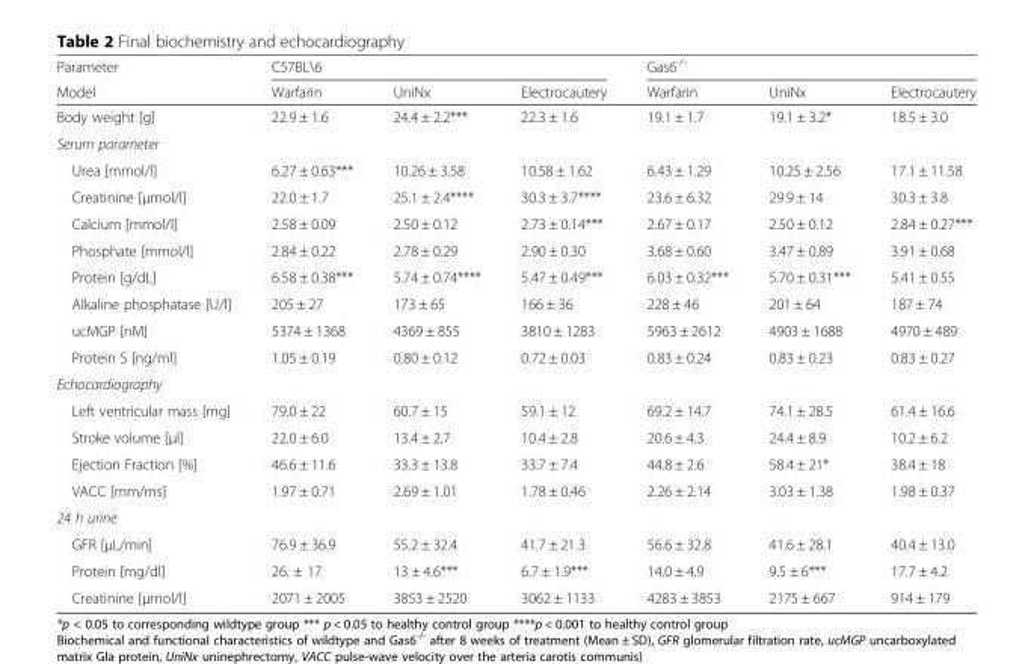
<table><thead><tr><td rowspan="2">Parameter Model</td><td colspan="3">C57BL\6</td><td colspan="3">Gas6<sup>-/-</sup></td></tr><tr><td>Warfarin</td><td>UniNx</td><td>Electrocautery</td><td>Warfarin</td><td>UniNx</td><td>Electrocautery</td></tr></thead><tbody><tr><td>Body weight [g]</td><td>22.9 ± 1.6</td><td>24.4 ± 2.2***</td><td>22.3 ± 1.6</td><td>19.1 ± 1.7</td><td>19.1 ± 3.2*</td><td>18.5 ± 3.0</td></tr><tr><td colspan="7">Serum parameter</td></tr><tr><td>Urea [mmol/l]</td><td>6.27 ± 0.63***</td><td>10.26 ± 3.58</td><td>10.58 ± 1.62</td><td>6.43 ± 1.29</td><td>10.25 ± 2.56</td><td>17.1 ± 11.58</td></tr><tr><td>Creatinine [μmol/l]</td><td>22.0 ± 1.7</td><td>25.1 ± 2.4****</td><td>30.3 ± 3.7****</td><td>23.6 ± 6.32</td><td>29.9 ± 14</td><td>30.3 ± 3.8</td></tr><tr><td>Calcium [mmol/l]</td><td>2.58 ± 0.09</td><td>2.50 ± 0.12</td><td>2.73 ± 0.14***</td><td>2.67 ± 0.17</td><td>2.50 ± 0.12</td><td>2.84 ± 0.27***</td></tr><tr><td>Phosphate [mmol/l]</td><td>2.84 ± 0.22</td><td>2.78 ± 0.29</td><td>2.90 ± 0.30</td><td>3.68 ± 0.60</td><td>3.47 ± 0.89</td><td>3.91 ± 0.68</td></tr><tr><td>Protein [g/dL]</td><td>6.58 ± 0.38***</td><td>5.74 ± 0.74****</td><td>5.47 ± 0.49***</td><td>6.03 ± 0.32***</td><td>5.70 ± 0.31***</td><td>5.41 ± 0.55</td></tr><tr><td>Alkaline phosphatase [U/l]</td><td>205 ± 27</td><td>173 ± 65</td><td>166 ± 36</td><td>228 ± 46</td><td>201 ± 64</td><td>187 ± 74</td></tr><tr><td>ucMGP [nM]</td><td>5374 ± 1368</td><td>4369 ± 855</td><td>3810 ± 1283</td><td>5963 ± 2612</td><td>4903 ± 1688</td><td>4970 ± 489</td></tr><tr><td>Protein S [ng/ml]</td><td>1.05 ± 0.19</td><td>0.80 ± 0.12</td><td>0.72 ± 0.03</td><td>0.83 ± 0.24</td><td>0.83 ± 0.23</td><td>0.83 ± 0.27</td></tr><tr><td colspan="7">Echocardiography</td></tr><tr><td>Left ventricular mass [mg]</td><td>79.0 ± 22</td><td>60.7 ± 15</td><td>59.1 ± 12</td><td>69.2 ± 14.7</td><td>74.1 ± 28.5</td><td>61.4 ± 16.6</td></tr><tr><td>Stroke volume [μl]</td><td>22.0 ± 6.0</td><td>13.4 ± 2.7</td><td>10.4 ± 2.8</td><td>20.6 ± 4.3</td><td>24.4 ± 8.9</td><td>10.2 ± 6.2</td></tr><tr><td>Ejection Fraction [%]</td><td>46.6 ± 11.6</td><td>33.3 ± 13.8</td><td>33.7 ± 7.4</td><td>44.8 ± 2.6</td><td>58.4 ± 21*</td><td>38.4 ± 18</td></tr><tr><td>VACC [mm/ms]</td><td>1.97 ± 0.71</td><td>2.69 ± 1.01</td><td>1.78 ± 0.46</td><td>2.26 ± 2.14</td><td>3.03 ± 1.38</td><td>1.98 ± 0.37</td></tr><tr><td colspan="7">24 h urine</td></tr><tr><td>GFR [μL/min]</td><td>76.9 ± 36.9</td><td>55.2 ± 32.4</td><td>41.7 ± 21.3</td><td>56.6 ± 32.8</td><td>41.6 ± 28.1</td><td>40.4 ± 13.0</td></tr><tr><td>Protein [mg/dl]</td><td>26. ± 17</td><td>13 ± 4.6***</td><td>6.7 ± 1.9***</td><td>14.0 ± 4.9</td><td>9.5 ± 6***</td><td>17.7 ± 4.2</td></tr><tr><td>Creatinine [μmol/l]</td><td>2071 ± 2005</td><td>3853 ± 2520</td><td>3062 ± 1133</td><td>4283 ± 3853</td><td>2175 ± 667</td><td>914 ± 179</td></tr></tbody></table>